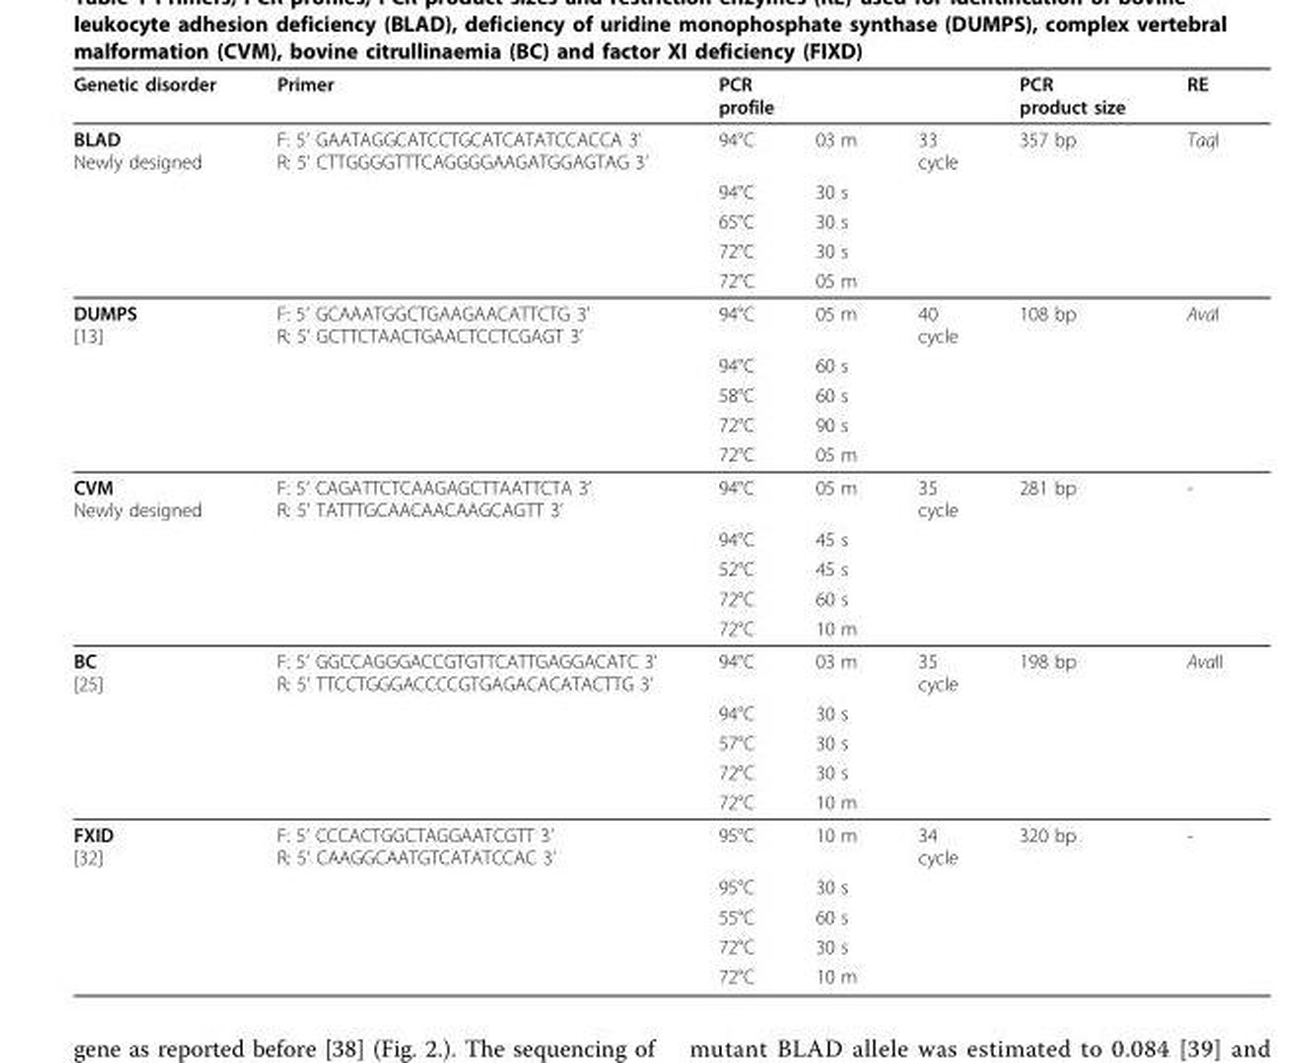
<table><thead><tr><td rowspan="2">Genetic disorder BLAD Newly designed</td><td rowspan="2">Primer F: 5’ GAATAGGCATCCTGCATCATATCCACCA 3’ R: 5’ CTTGGGGTTTCAGGGGAAGATGGAGTAG 3’</td><td colspan="3">PCR profile</td><td rowspan="2">PCR product size 357 bp</td><td rowspan="2">RE TaqI</td></tr><tr><td>94°C</td><td>03 m</td><td>33 cycle</td></tr></thead><tbody><tr><td></td><td></td><td>94°C</td><td>30 s</td><td></td><td></td><td></td></tr><tr><td></td><td></td><td>65°C</td><td>30 s</td><td></td><td></td><td></td></tr><tr><td></td><td></td><td>72°C</td><td>30 s</td><td></td><td></td><td></td></tr><tr><td></td><td></td><td>72°C</td><td>05 m</td><td></td><td></td><td></td></tr><tr><td rowspan="5">DUMPS [13]</td><td>F: 5’ GCAAATGGCTGAAGAACATTCTG 3’ R: 5’ GCTTCTAACTGAACTCCTCGAGT 3’</td><td>94°C</td><td>05 m</td><td>40 cycle</td><td>108 bp</td><td>AvaI</td></tr><tr><td></td><td>94°C</td><td>60 s</td><td></td><td></td><td></td></tr><tr><td></td><td>58°C</td><td>60 s</td><td></td><td></td><td></td></tr><tr><td></td><td>72°C</td><td>90 s</td><td></td><td></td><td></td></tr><tr><td></td><td>72°C</td><td>05 m</td><td></td><td></td><td></td></tr><tr><td rowspan="5">CVM Newly designed</td><td>F: 5’ CAGATTCTCAAGAGCTTAATTCTA 3’ R: 5’ TATTTGCAACAACAAGCAGTT 3’</td><td>94°C</td><td>05 m</td><td>35 cycle</td><td>281 bp</td><td>-</td></tr><tr><td></td><td>94°C</td><td>45 s</td><td></td><td></td><td></td></tr><tr><td></td><td>52°C</td><td>45 s</td><td></td><td></td><td></td></tr><tr><td></td><td>72°C</td><td>60 s</td><td></td><td></td><td></td></tr><tr><td></td><td>72°C</td><td>10 m</td><td></td><td></td><td></td></tr><tr><td rowspan="5">BC [25]</td><td>F: 5’ GGCCAGGGACCGTGTTCATTGAGGACATC 3’ R: 5’ TTCCTGGGACCCCGTGAGACACATACTTG 3’</td><td>94°C</td><td>03 m</td><td>35 cycle</td><td>198 bp</td><td>AvaII</td></tr><tr><td></td><td>94°C</td><td>30 s</td><td></td><td></td><td></td></tr><tr><td></td><td>57°C</td><td>30 s</td><td></td><td></td><td></td></tr><tr><td></td><td>72°C</td><td>30 s</td><td></td><td></td><td></td></tr><tr><td></td><td>72°C</td><td>10 m</td><td></td><td></td><td></td></tr><tr><td rowspan="5">FXID [32]</td><td>F: 5’ CCCACTGGCTAGGAATCGTT 3’ R: 5’ CAAGGCAATGTCATATCCAC 3’</td><td>95°C</td><td>10 m</td><td>34 cycle</td><td>320 bp</td><td>-</td></tr><tr><td></td><td>95°C</td><td>30 s</td><td></td><td></td><td></td></tr><tr><td></td><td>55°C</td><td>60 s</td><td></td><td></td><td></td></tr><tr><td></td><td>72°C</td><td>30 s</td><td></td><td></td><td></td></tr><tr><td></td><td>72°C</td><td>10 m</td><td></td><td></td><td></td></tr></tbody></table>